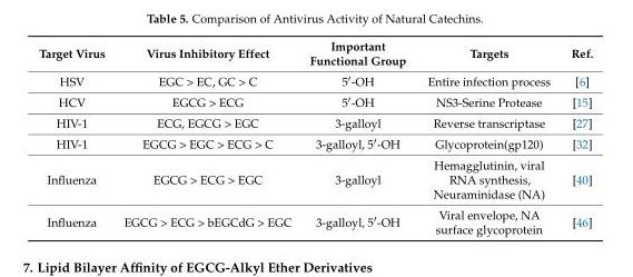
<table><thead><tr><td>Target Virus</td><td>Virus Inhibitory Effect</td><td>Important Functional Group</td><td>Targets</td><td>Ref.</td></tr></thead><tbody><tr><td>HSV</td><td>EGC &gt; EC, GC &gt; C</td><td>5′-OH</td><td>Entire infection process</td><td>[6]</td></tr><tr><td>HCV</td><td>EGCG &gt; ECG</td><td>5′-OH</td><td>NS3-Serine Protease</td><td>[15]</td></tr><tr><td>HIV-1</td><td>ECG, EGCG &gt; EGC</td><td>3-galloyl</td><td>Reverse transcriptase</td><td>[27]</td></tr><tr><td>HIV-1</td><td>EGCG &gt; EGC &gt; ECG &gt; C</td><td>3-galloyl, 5′-OH</td><td>Glycoprotein(gp120)</td><td>[32]</td></tr><tr><td>Influenza</td><td>EGCG &gt; ECG &gt; EGC</td><td>3-galloyl</td><td>Hemagglutinin, viral RNA synthesis, Neuraminidase (NA)</td><td>[40]</td></tr><tr><td>Influenza</td><td>EGCG &gt; ECG &gt; bEGCdG &gt; EGC</td><td>3-galloyl, 5′-OH</td><td>Viral envelope, NA surface glycoprotein</td><td>[46]</td></tr></tbody></table>